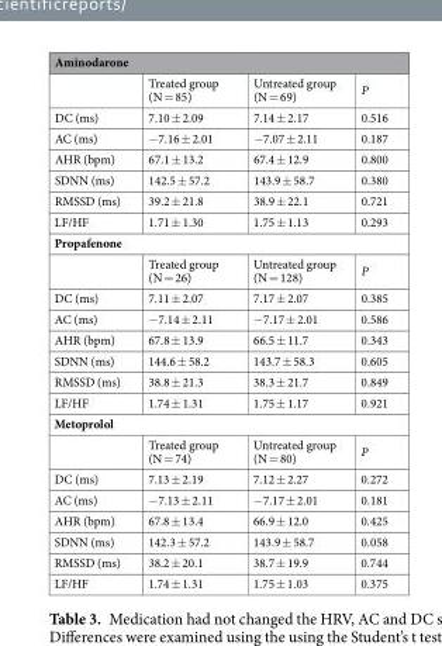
<table><thead><tr><td colspan="4">Aminodarone</td></tr><tr><td></td><td>Treated group (N = 85)</td><td>Untreated group (N = 69)</td><td>P</td></tr></thead><tbody><tr><td>DC (ms)</td><td>7.10 ± 2.09</td><td>7.14 ± 2.17</td><td>0.516</td></tr><tr><td>AC (ms)</td><td>−7.16 ± 2.01</td><td>−7.07 ± 2.11</td><td>0.187</td></tr><tr><td>AHR (bpm)</td><td>67.1 ± 13.2</td><td>67.4 ± 12.9</td><td>0.800</td></tr><tr><td>SDNN (ms)</td><td>142.5 ± 57.2</td><td>143.9 ± 58.7</td><td>0.380</td></tr><tr><td>RMSSD (ms)</td><td>39.2 ± 21.8</td><td>38.9 ± 22.1</td><td>0.721</td></tr><tr><td>LF/HF</td><td>1.71 ± 1.30</td><td>1.75 ± 1.13</td><td>0.293</td></tr><tr><td colspan="4">Propafenone</td></tr><tr><td></td><td>Treated group (N = 26)</td><td>Untreated group (N = 128)</td><td>P</td></tr><tr><td>DC (ms)</td><td>7.11 ± 2.07</td><td>7.17 ± 2.07</td><td>0.385</td></tr><tr><td>AC (ms)</td><td>−7.14 ± 2.11</td><td>−7.17 ± 2.01</td><td>0.586</td></tr><tr><td>AHR (bpm)</td><td>67.8 ± 13.9</td><td>66.5 ± 11.7</td><td>0.343</td></tr><tr><td>SDNN (ms)</td><td>144.6 ± 58.2</td><td>143.7 ± 58.3</td><td>0.605</td></tr><tr><td>RMSSD (ms)</td><td>38.8 ± 21.3</td><td>38.3 ± 21.7</td><td>0.849</td></tr><tr><td>LF/HF</td><td>1.74 ± 1.31</td><td>1.75 ± 1.17</td><td>0.921</td></tr><tr><td colspan="4">Metoprolol</td></tr><tr><td></td><td>Treated group (N = 74)</td><td>Untreated group (N = 80)</td><td>P</td></tr><tr><td>DC (ms)</td><td>7.13 ± 2.19</td><td>7.12 ± 2.27</td><td>0.272</td></tr><tr><td>AC (ms)</td><td>−7.13 ± 2.11</td><td>−7.17 ± 2.01</td><td>0.181</td></tr><tr><td>AHR (bpm)</td><td>67.8 ± 13.4</td><td>66.9 ± 12.0</td><td>0.425</td></tr><tr><td>SDNN (ms)</td><td>142.3 ± 57.2</td><td>143.9 ± 58.7</td><td>0.058</td></tr><tr><td>RMSSD (ms)</td><td>38.2 ± 20.1</td><td>38.7 ± 19.9</td><td>0.744</td></tr><tr><td>LF/HF</td><td>1.74 ± 1.31</td><td>1.75 ± 1.03</td><td>0.375</td></tr></tbody></table>